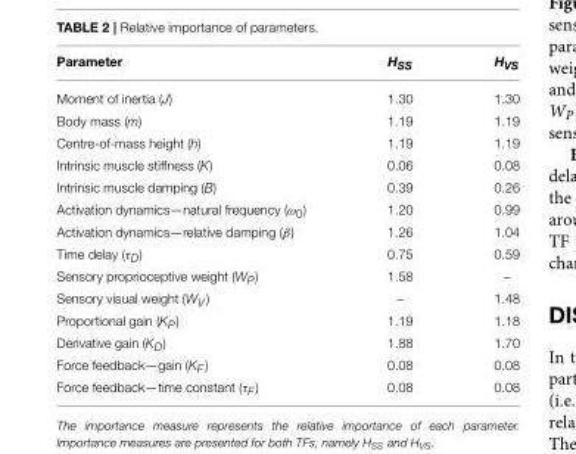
<table><thead><tr><td>Parameter</td><td>HSS</td><td>HVS</td></tr></thead><tbody><tr><td>Moment of inertia (J)</td><td>1.30</td><td>1.30</td></tr><tr><td>Body mass (m)</td><td>1.19</td><td>1.19</td></tr><tr><td>Centre-of-mass height (h)</td><td>1.19</td><td>1.19</td></tr><tr><td>Intrinsic muscle stiffness (K)</td><td>0.06</td><td>0.08</td></tr><tr><td>Intrinsic muscle damping (B)</td><td>0.39</td><td>0.26</td></tr><tr><td>Activation dynamics—natural frequency (ω<sub>0</sub>)</td><td>1.20</td><td>0.99</td></tr><tr><td>Activation dynamics—relative damping (β)</td><td>1.26</td><td>1.04</td></tr><tr><td>Time delay (τ<sub>D</sub>)</td><td>0.75</td><td>0.59</td></tr><tr><td>Sensory proprioceptive weight (WP)</td><td>1.58</td><td>–</td></tr><tr><td>Sensory visual weight (WV)</td><td>–</td><td>1.48</td></tr><tr><td>Proportional gain (KP)</td><td>1.19</td><td>1.18</td></tr><tr><td>Derivative gain (KD)</td><td>1.88</td><td>1.70</td></tr><tr><td>Force feedback—gain (KF)</td><td>0.08</td><td>0.08</td></tr><tr><td>Force feedback—time constant (τ<sub>F</sub>)</td><td>0.08</td><td>0.08</td></tr></tbody></table>